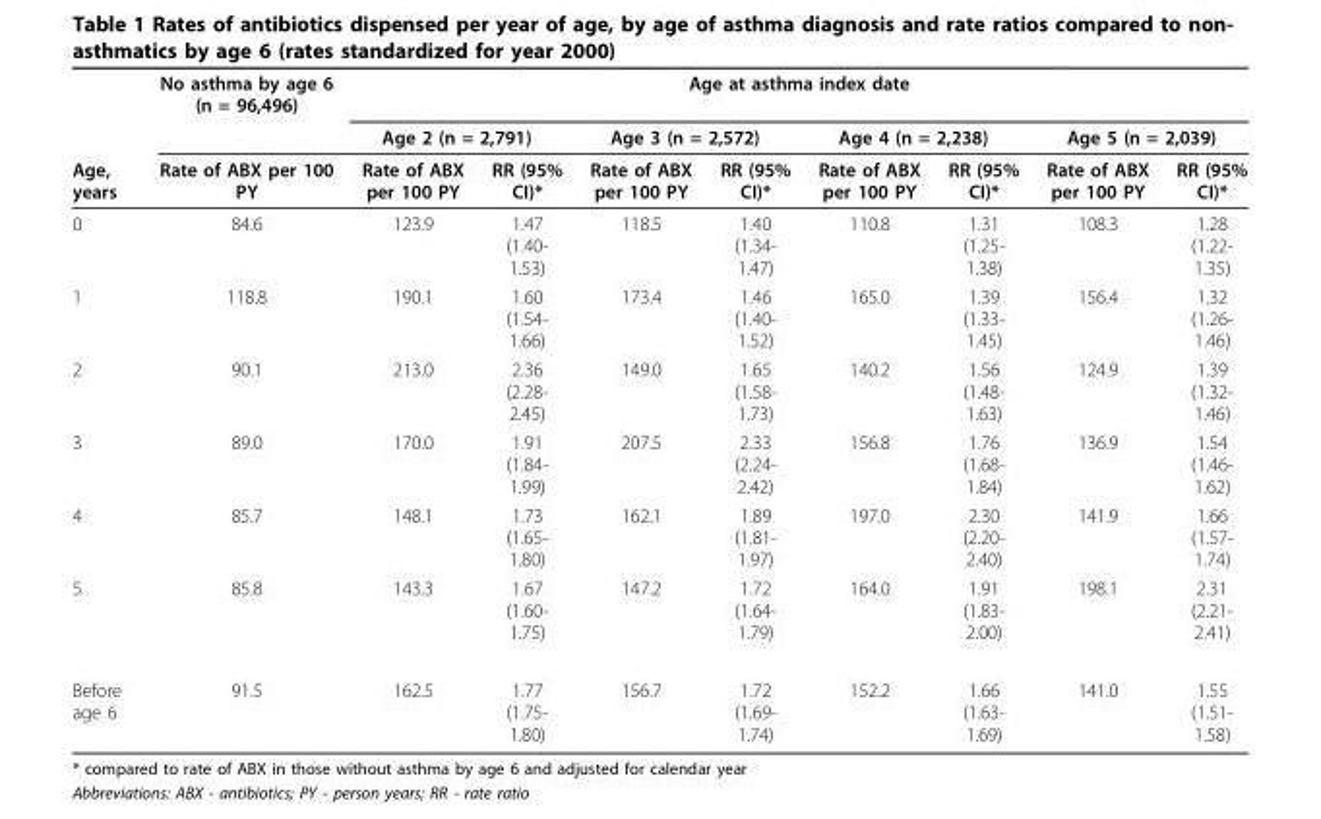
<table><thead><tr><td rowspan="3">Age, years</td><td rowspan="3">No asthma by age 6 (n = 96,496) Rate of ABX per 100 PY</td><td colspan="8">Age at asthma index date</td></tr><tr><td colspan="2">Age 2 (n = 2,791)</td><td colspan="2">Age 3 (n = 2,572)</td><td colspan="2">Age 4 (n = 2,238)</td><td colspan="2">Age 5 (n = 2,039)</td></tr><tr><td>Rate of ABX per 100 PY</td><td>RR (95% CI)*</td><td>Rate of ABX per 100 PY</td><td>RR (95% CI)*</td><td>Rate of ABX per 100 PY</td><td>RR (95% CI)*</td><td>Rate of ABX per 100 PY</td><td>RR (95% CI)*</td></tr></thead><tbody><tr><td>0</td><td>84.6</td><td>123.9</td><td>1.47 (1.40- 1.53)</td><td>118.5</td><td>1.40 (1.34- 1.47)</td><td>110.8</td><td>1.31 (1.25- 1.38)</td><td>108.3</td><td>1.28 (1.22- 1.35)</td></tr><tr><td>1</td><td>118.8</td><td>190.1</td><td>1.60 (1.54- 1.66)</td><td>173.4</td><td>1.46 (1.40- 1.52)</td><td>165.0</td><td>1.39 (1.33- 1.45)</td><td>156.4</td><td>1.32 (1.26- 1.46)</td></tr><tr><td>2</td><td>90.1</td><td>213.0</td><td>2.36 (2.28- 2.45)</td><td>149.0</td><td>1.65 (1.58- 1.73)</td><td>140.2</td><td>1.56 (1.48- 1.63)</td><td>124.9</td><td>1.39 (1.32- 1.46)</td></tr><tr><td>3</td><td>89.0</td><td>170.0</td><td>1.91 (1.84- 1.99)</td><td>207.5</td><td>2.33 (2.24- 2.42)</td><td>156.8</td><td>1.76 (1.68- 1.84)</td><td>136.9</td><td>1.54 (1.46- 1.62)</td></tr><tr><td>4</td><td>85.7</td><td>148.1</td><td>1.73 (1.65- 1.80)</td><td>162.1</td><td>1.89 (1.81- 1.97)</td><td>197.0</td><td>2.30 (2.20- 2.40)</td><td>141.9</td><td>1.66 (1.57- 1.74)</td></tr><tr><td>5</td><td>85.8</td><td>143.3</td><td>1.67 (1.60- 1.75)</td><td>147.2</td><td>1.72 (1.64- 1.79)</td><td>164.0</td><td>1.91 (1.83- 2.00)</td><td>198.1</td><td>2.31 (2.21- 2.41)</td></tr><tr><td>Before age 6</td><td>91.5</td><td>162.5</td><td>1.77 (1.75- 1.80)</td><td>156.7</td><td>1.72 (1.69- 1.74)</td><td>152.2</td><td>1.66 (1.63- 1.69)</td><td>141.0</td><td>1.55 (1.51- 1.58)</td></tr></tbody></table>